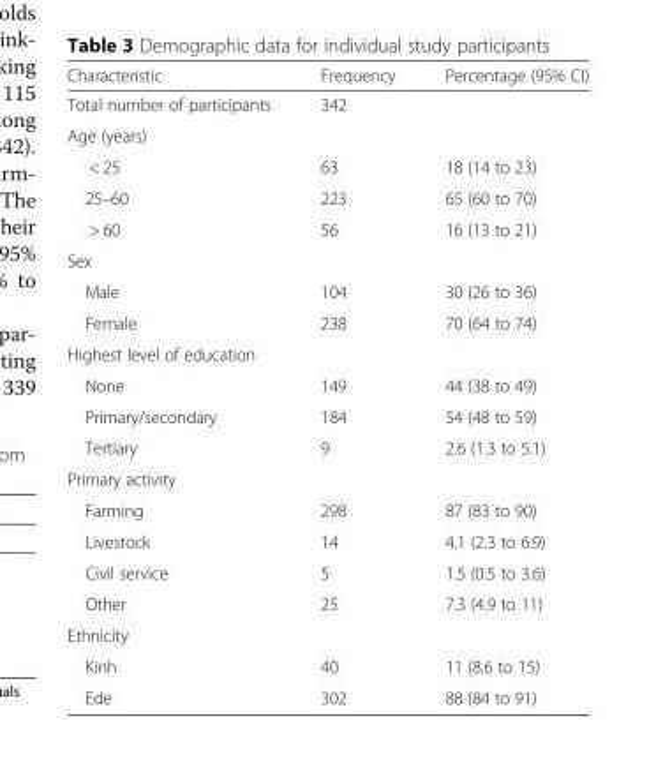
<table><thead><tr><td>Characteristic</td><td>Frequency</td><td>Percentage (95% CI)</td></tr></thead><tbody><tr><td>Total number of participants</td><td>342</td><td></td></tr><tr><td colspan="3">Age (years)</td></tr><tr><td>&lt; 25</td><td>63</td><td>18 (14 to 23)</td></tr><tr><td>25–60</td><td>223</td><td>65 (60 to 70)</td></tr><tr><td>&gt; 60</td><td>56</td><td>16 (13 to 21)</td></tr><tr><td colspan="3">Sex</td></tr><tr><td>Male</td><td>104</td><td>30 (26 to 36)</td></tr><tr><td>Female</td><td>238</td><td>70 (64 to 74)</td></tr><tr><td colspan="3">Highest level of education</td></tr><tr><td>None</td><td>149</td><td>44 (38 to 49)</td></tr><tr><td>Primary/secondary</td><td>184</td><td>54 (48 to 59)</td></tr><tr><td>Tertiary</td><td>9</td><td>2.6 (1.3 to 5.1)</td></tr><tr><td colspan="3">Primary activity</td></tr><tr><td>Farming</td><td>298</td><td>87 (83 to 90)</td></tr><tr><td>Livestock</td><td>14</td><td>4.1 (2.3 to 6.9)</td></tr><tr><td>Civil service</td><td>5</td><td>1.5 (0.5 to 3.6)</td></tr><tr><td>Other</td><td>25</td><td>7.3 (4.9 to 11)</td></tr><tr><td colspan="3">Ethnicity</td></tr><tr><td>Kinh</td><td>40</td><td>11 (8.6 to 15)</td></tr><tr><td>Ede</td><td>302</td><td>88 (84 to 91)</td></tr></tbody></table>